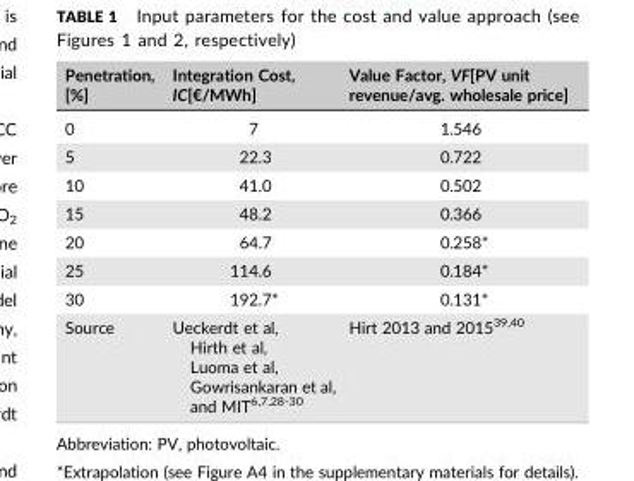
<table><thead><tr><td>Penetration, [%]</td><td>Integration Cost, IC[€/MWh]</td><td>Value Factor, VF[PV unit revenue/avg. wholesale price]</td></tr></thead><tbody><tr><td>0</td><td>7</td><td>1.546</td></tr><tr><td>5</td><td>22.3</td><td>0.722</td></tr><tr><td>10</td><td>41.0</td><td>0.502</td></tr><tr><td>15</td><td>48.2</td><td>0.366</td></tr><tr><td>20</td><td>64.7</td><td>0.258*</td></tr><tr><td>25</td><td>114.6</td><td>0.184*</td></tr><tr><td>30</td><td>192.7*</td><td>0.131*</td></tr><tr><td>Source</td><td>Ueckerdt et al, Hirth et al, Luoma et al, Gowrisankaran et al, and MIT6,7,28-30</td><td>Hirt 2013 and 2015<sup>39</sup>,<sup>40</sup></td></tr></tbody></table>